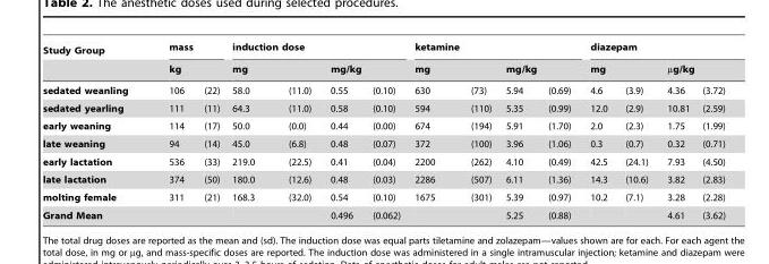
<table><thead><tr><td rowspan="3">Study Group sedated weanling</td><td rowspan="2" colspan="2">mass kg</td><td colspan="4">induction dose</td><td colspan="4">ketamine</td><td colspan="4">diazepam</td></tr><tr><td colspan="2">mg</td><td colspan="2">mg/kg</td><td colspan="2">mg</td><td colspan="2">mg/kg</td><td colspan="2">mg</td><td colspan="2">µg/kg</td></tr><tr><td>106</td><td>(22)</td><td>58.0</td><td>(11.0)</td><td>0.55</td><td>(0.10)</td><td>630</td><td>(73)</td><td>5.94</td><td>(0.69)</td><td>4.6</td><td>(3.9)</td><td>4.36</td><td>(3.72)</td></tr></thead><tbody><tr><td>sedated yearling</td><td>111</td><td>(11)</td><td>64.3</td><td>(11.0)</td><td>0.58</td><td>(0.10)</td><td>594</td><td>(110)</td><td>5.35</td><td>(0.99)</td><td>12.0</td><td>(2.9)</td><td>10.81</td><td>(2.59)</td></tr><tr><td>early weaning</td><td>114</td><td>(17)</td><td>50.0</td><td>(0.0)</td><td>0.44</td><td>(0.00)</td><td>674</td><td>(194)</td><td>5.91</td><td>(1.70)</td><td>2.0</td><td>(2.3)</td><td>1.75</td><td>(1.99)</td></tr><tr><td>late weaning</td><td>94</td><td>(14)</td><td>45.0</td><td>(6.8)</td><td>0.48</td><td>(0.07)</td><td>372</td><td>(100)</td><td>3.96</td><td>(1.06)</td><td>0.3</td><td>(0.7)</td><td>0.32</td><td>(0.71)</td></tr><tr><td>early lactation</td><td>536</td><td>(33)</td><td>219.0</td><td>(22.5)</td><td>0.41</td><td>(0.04)</td><td>2200</td><td>(262)</td><td>4.10</td><td>(0.49)</td><td>42.5</td><td>(24.1)</td><td>7.93</td><td>(4.50)</td></tr><tr><td>late lactation</td><td>374</td><td>(50)</td><td>180.0</td><td>(12.6)</td><td>0.48</td><td>(0.03)</td><td>2286</td><td>(507)</td><td>6.11</td><td>(1.36)</td><td>14.3</td><td>(10.6)</td><td>3.82</td><td>(2.83)</td></tr><tr><td>molting female</td><td>311</td><td>(21)</td><td>168.3</td><td>(32.0)</td><td>0.54</td><td>(0.10)</td><td>1675</td><td>(301)</td><td>5.39</td><td>(0.97)</td><td>10.2</td><td>(7.1)</td><td>3.28</td><td>(2.28)</td></tr><tr><td colspan="3">Grand Mean</td><td></td><td></td><td>0.496</td><td>(0.062)</td><td></td><td></td><td>5.25</td><td>(0.88)</td><td></td><td></td><td>4.61</td><td>(3.62)</td></tr></tbody></table>